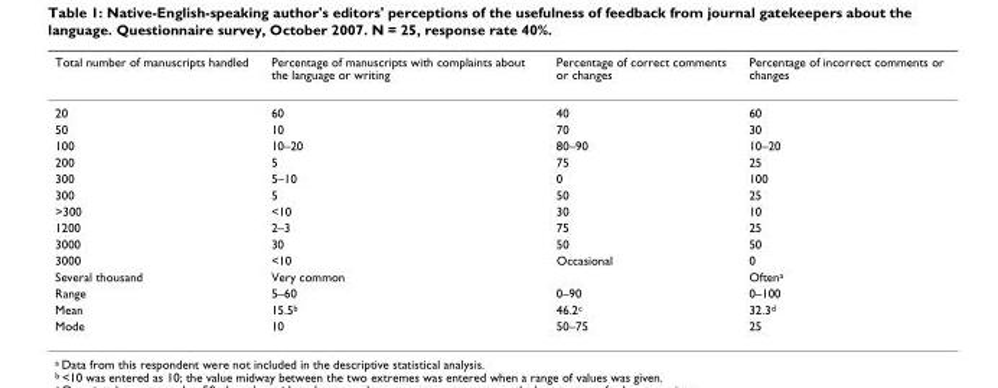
<table><thead><tr><td>Total number of manuscripts handled</td><td>Percentage of manuscripts with complaints about the language or writing</td><td>Percentage of correct comments or changes</td><td>Percentage of incorrect comments or changes</td></tr></thead><tbody><tr><td>20</td><td>60</td><td>40</td><td>60</td></tr><tr><td>50</td><td>10</td><td>70</td><td>30</td></tr><tr><td>100</td><td>10–20</td><td>80–90</td><td>10–20</td></tr><tr><td>200</td><td>5</td><td>75</td><td>25</td></tr><tr><td>300</td><td>5–10</td><td>0</td><td>100</td></tr><tr><td>300</td><td>5</td><td>50</td><td>25</td></tr><tr><td>&gt;300</td><td>&lt;10</td><td>30</td><td>10</td></tr><tr><td>1200</td><td>2–3</td><td>75</td><td>25</td></tr><tr><td>3000</td><td>30</td><td>50</td><td>50</td></tr><tr><td>3000</td><td>&lt;10</td><td>Occasional</td><td>0</td></tr><tr><td>Several thousand</td><td>Very common</td><td></td><td>Often<sup>a</sup></td></tr><tr><td>Range</td><td>5–60</td><td>0–90</td><td>0–100</td></tr><tr><td>Mean</td><td>15.5<sup>b</sup></td><td>46.2<sup>c</sup></td><td>32.3<sup>d</sup></td></tr><tr><td>Mode</td><td>10</td><td>50–75</td><td>25</td></tr></tbody></table>